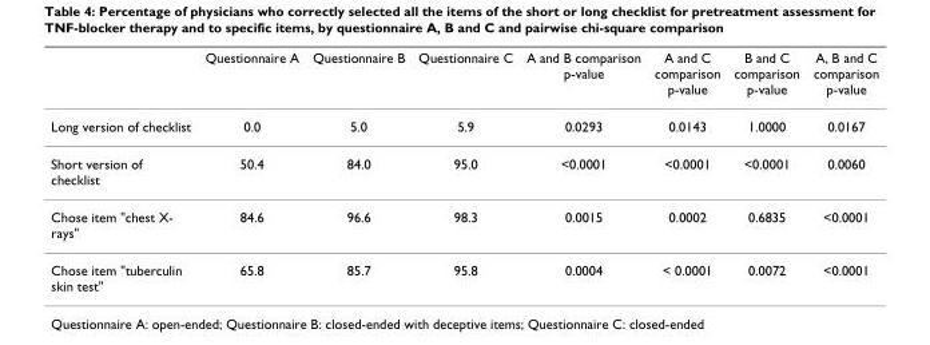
<table><thead><tr><td></td><td>Questionnaire A</td><td>Questionnaire B</td><td>Questionnaire C</td><td>A and B comparison p-value</td><td>A and C comparison p-value</td><td>B and C comparison p-value</td><td>A, B and C comparison p-value</td></tr></thead><tbody><tr><td>Long version of checklist</td><td>0.0</td><td>5.0</td><td>5.9</td><td>0.0293</td><td>0.0143</td><td>1.0000</td><td>0.0167</td></tr><tr><td>Short version of checklist</td><td>50.4</td><td>84.0</td><td>95.0</td><td>&lt;0.0001</td><td>&lt;0.0001</td><td>&lt;0.0001</td><td>0.0060</td></tr><tr><td>Chose item &quot;chest X- rays&quot;</td><td>84.6</td><td>96.6</td><td>98.3</td><td>0.0015</td><td>0.0002</td><td>0.6835</td><td>&lt;0.0001</td></tr><tr><td>Chose item &quot;tuberculin skin test&quot;</td><td>65.8</td><td>85.7</td><td>95.8</td><td>0.0004</td><td>&lt; 0.0001</td><td>0.0072</td><td>&lt;0.0001</td></tr></tbody></table>